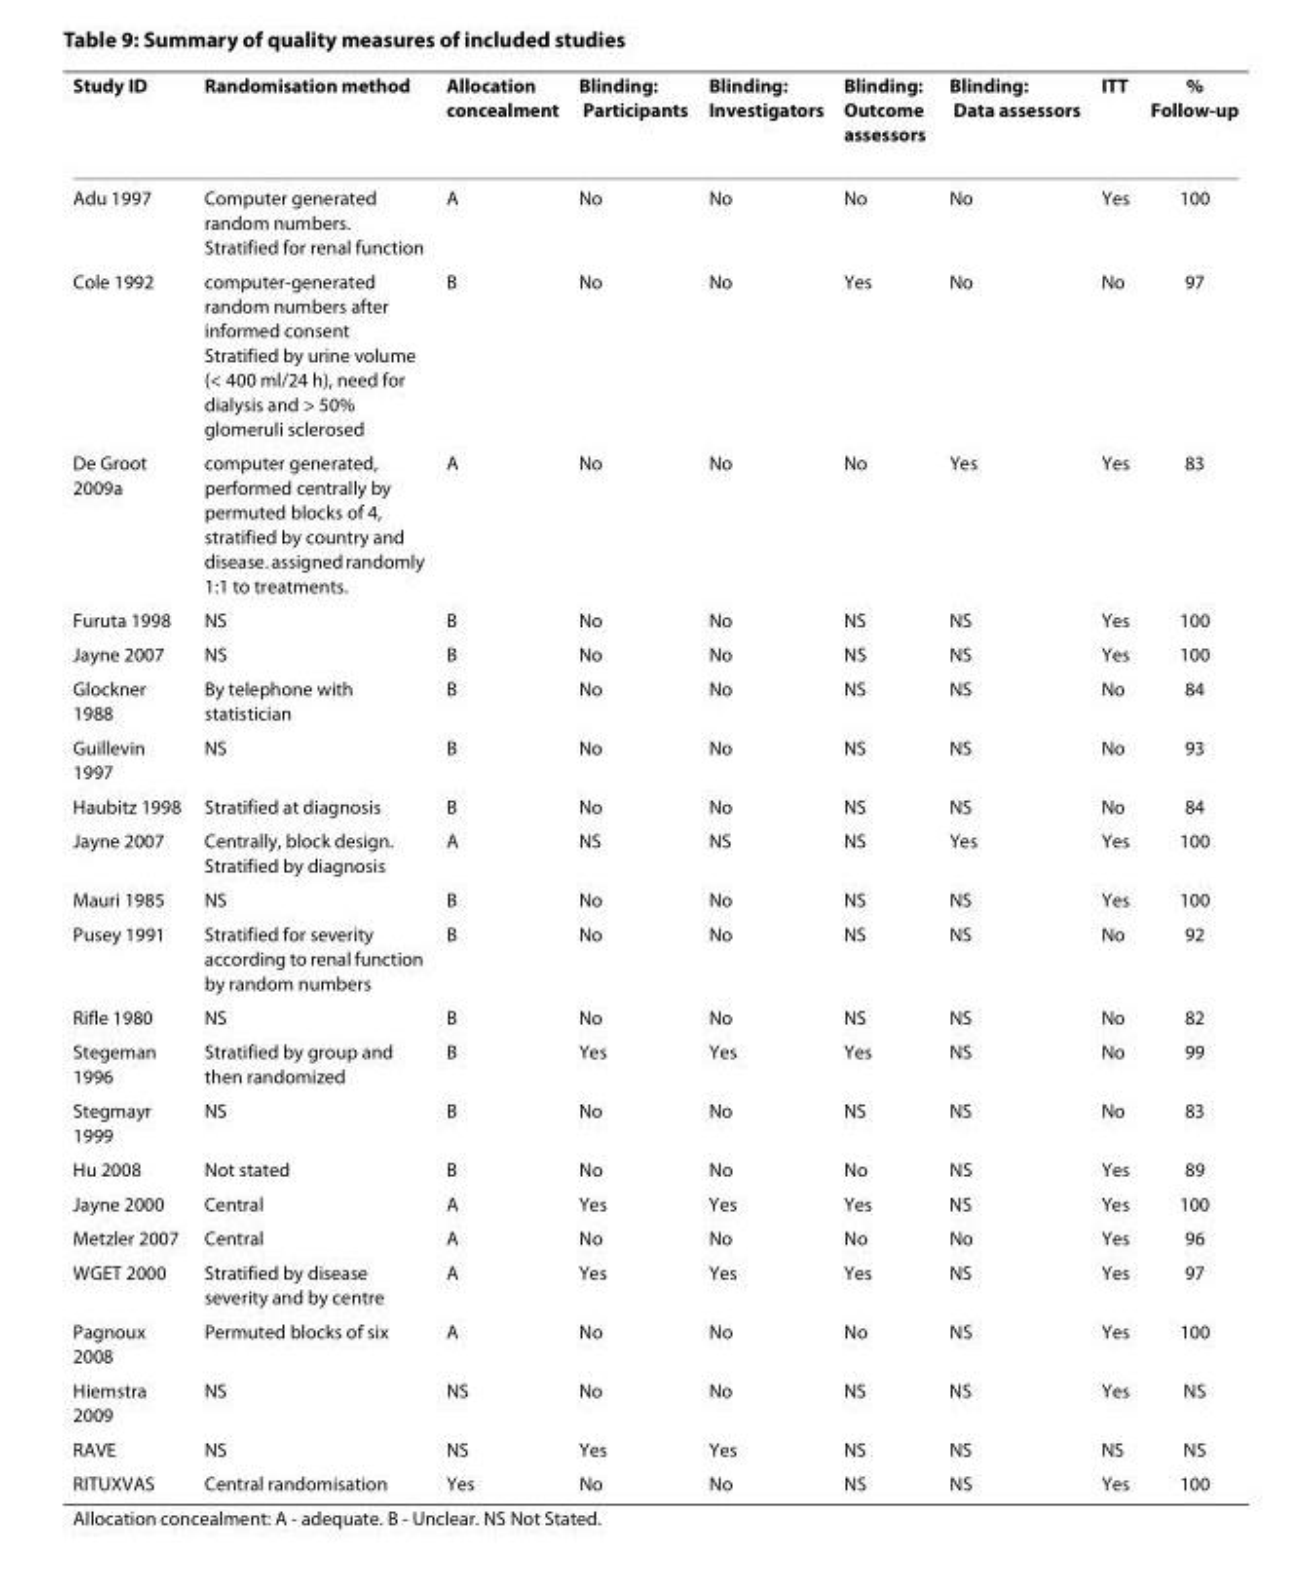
<table><thead><tr><td>Study ID</td><td>Randomisation method</td><td>Allocation concealment</td><td>Blinding: Participants</td><td>Blinding: Investigators</td><td>Blinding: Outcome assessors</td><td>Blinding: Data assessors</td><td>ITT</td><td>% Follow-up</td></tr></thead><tbody><tr><td>Adu 1997</td><td>Computer generated random numbers. Stratified for renal function</td><td>A</td><td>No</td><td>No</td><td>No</td><td>No</td><td>Yes</td><td>100</td></tr><tr><td>Cole 1992</td><td>computer-generated random numbers after informed consent Stratified by urine volume (&lt; 400 ml/24 h), need for dialysis and &gt; 50% glomeruli sclerosed</td><td>B</td><td>No</td><td>No</td><td>Yes</td><td>No</td><td>No</td><td>97</td></tr><tr><td>De Groot 2009a</td><td>computer generated, performed centrally by permuted blocks of 4, stratified by country and disease. assigned randomly 1:1 to treatments.</td><td>A</td><td>No</td><td>No</td><td>No</td><td>Yes</td><td>Yes</td><td>83</td></tr><tr><td>Furuta 1998</td><td>NS</td><td>B</td><td>No</td><td>No</td><td>NS</td><td>NS</td><td>Yes</td><td>100</td></tr><tr><td>Jayne 2007</td><td>NS</td><td>B</td><td>No</td><td>No</td><td>NS</td><td>NS</td><td>Yes</td><td>100</td></tr><tr><td>Glockner 1988</td><td>By telephone with statistician</td><td>B</td><td>No</td><td>No</td><td>NS</td><td>NS</td><td>No</td><td>84</td></tr><tr><td>Guillevin 1997</td><td>NS</td><td>B</td><td>No</td><td>No</td><td>NS</td><td>NS</td><td>No</td><td>93</td></tr><tr><td>Haubitz 1998</td><td>Stratified at diagnosis</td><td>B</td><td>No</td><td>No</td><td>NS</td><td>NS</td><td>No</td><td>84</td></tr><tr><td>Jayne 2007</td><td>Centrally, block design. Stratified by diagnosis</td><td>A</td><td>NS</td><td>NS</td><td>NS</td><td>Yes</td><td>Yes</td><td>100</td></tr><tr><td>Mauri 1985</td><td>NS</td><td>B</td><td>No</td><td>No</td><td>NS</td><td>NS</td><td>Yes</td><td>100</td></tr><tr><td>Pusey 1991</td><td>Stratified for severity according to renal function by random numbers</td><td>B</td><td>No</td><td>No</td><td>NS</td><td>NS</td><td>No</td><td>92</td></tr><tr><td>Rifle 1980</td><td>NS</td><td>B</td><td>No</td><td>No</td><td>NS</td><td>NS</td><td>No</td><td>82</td></tr><tr><td>Stegeman 1996</td><td>Stratified by group and then randomized</td><td>B</td><td>Yes</td><td>Yes</td><td>Yes</td><td>NS</td><td>No</td><td>99</td></tr><tr><td>Stegmayr 1999</td><td>NS</td><td>B</td><td>No</td><td>No</td><td>NS</td><td>NS</td><td>No</td><td>83</td></tr><tr><td>Hu 2008</td><td>Not stated</td><td>B</td><td>No</td><td>No</td><td>No</td><td>NS</td><td>Yes</td><td>89</td></tr><tr><td>Jayne 2000</td><td>Central</td><td>A</td><td>Yes</td><td>Yes</td><td>Yes</td><td>NS</td><td>Yes</td><td>100</td></tr><tr><td>Metzler 2007</td><td>Central</td><td>A</td><td>No</td><td>No</td><td>No</td><td>No</td><td>Yes</td><td>96</td></tr><tr><td>WGET 2000</td><td>Stratified by disease severity and by centre</td><td>A</td><td>Yes</td><td>Yes</td><td>Yes</td><td>NS</td><td>Yes</td><td>97</td></tr><tr><td>Pagnoux 2008</td><td>Permuted blocks of six</td><td>A</td><td>No</td><td>No</td><td>No</td><td>NS</td><td>Yes</td><td>100</td></tr><tr><td>Hiemstra 2009</td><td>NS</td><td>NS</td><td>No</td><td>No</td><td>NS</td><td>NS</td><td>Yes</td><td>NS</td></tr><tr><td>RAVE</td><td>NS</td><td>NS</td><td>Yes</td><td>Yes</td><td>NS</td><td>NS</td><td>NS</td><td>NS</td></tr><tr><td>RITUXVAS</td><td>Central randomisation</td><td>Yes</td><td>No</td><td>No</td><td>NS</td><td>NS</td><td>Yes</td><td>100</td></tr></tbody></table>